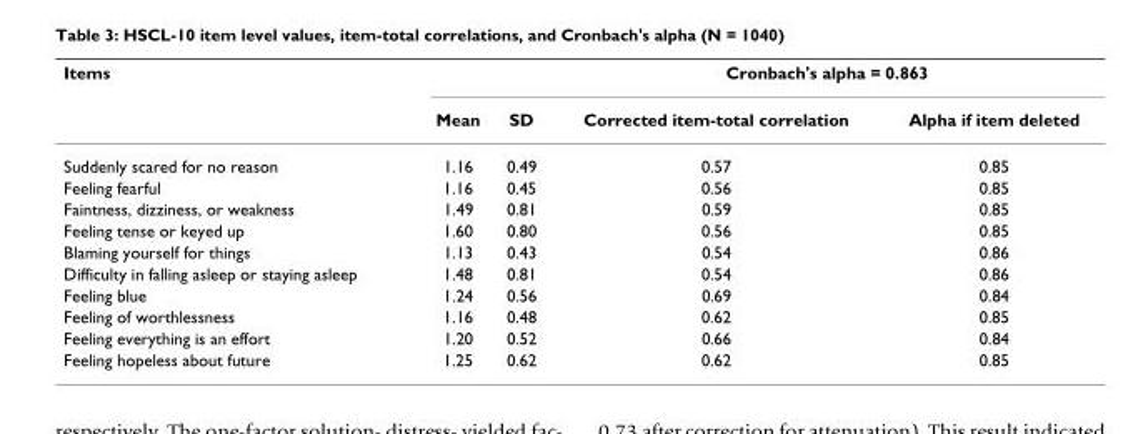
<table><thead><tr><td rowspan="2">Items</td><td rowspan="2">Mean</td><td rowspan="2">SD</td><td colspan="2">Cronbach&#x27;s alpha = 0.863</td></tr><tr><td>Corrected item-total correlation</td><td>Alpha if item deleted</td></tr></thead><tbody><tr><td>Suddenly scared for no reason</td><td>1.16</td><td>0.49</td><td>0.57</td><td>0.85</td></tr><tr><td>Feeling fearful</td><td>1.16</td><td>0.45</td><td>0.56</td><td>0.85</td></tr><tr><td>Faintness, dizziness, or weakness</td><td>1.49</td><td>0.81</td><td>0.59</td><td>0.85</td></tr><tr><td>Feeling tense or keyed up</td><td>1.60</td><td>0.80</td><td>0.56</td><td>0.85</td></tr><tr><td>Blaming yourself for things</td><td>1.13</td><td>0.43</td><td>0.54</td><td>0.86</td></tr><tr><td>Difficulty in falling asleep or staying asleep</td><td>1.48</td><td>0.81</td><td>0.54</td><td>0.86</td></tr><tr><td>Feeling blue</td><td>1.24</td><td>0.56</td><td>0.69</td><td>0.84</td></tr><tr><td>Feeling of worthlessness</td><td>1.16</td><td>0.48</td><td>0.62</td><td>0.85</td></tr><tr><td>Feeling everything is an effort</td><td>1.20</td><td>0.52</td><td>0.66</td><td>0.84</td></tr><tr><td>Feeling hopeless about future</td><td>1.25</td><td>0.62</td><td>0.62</td><td>0.85</td></tr></tbody></table>